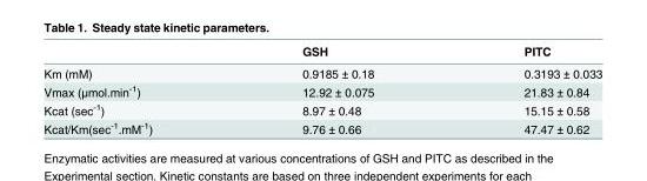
<table><thead><tr><td></td><td>GSH</td><td>PITC</td></tr></thead><tbody><tr><td>Km (mM)</td><td>0.9185 ± 0.18</td><td>0.3193 ± 0.033</td></tr><tr><td>Vmax (μmol.min<sup>-1</sup>)</td><td>12.92 ± 0.075</td><td>21.83 ± 0.84</td></tr><tr><td>Kcat (sec<sup>-1</sup>)</td><td>8.97 ± 0.48</td><td>15.15 ± 0.58</td></tr><tr><td>Kcat/Km(sec<sup>-1</sup>.mM<sup>-1</sup>)</td><td>9.76 ± 0.66</td><td>47.47 ± 0.62</td></tr></tbody></table>